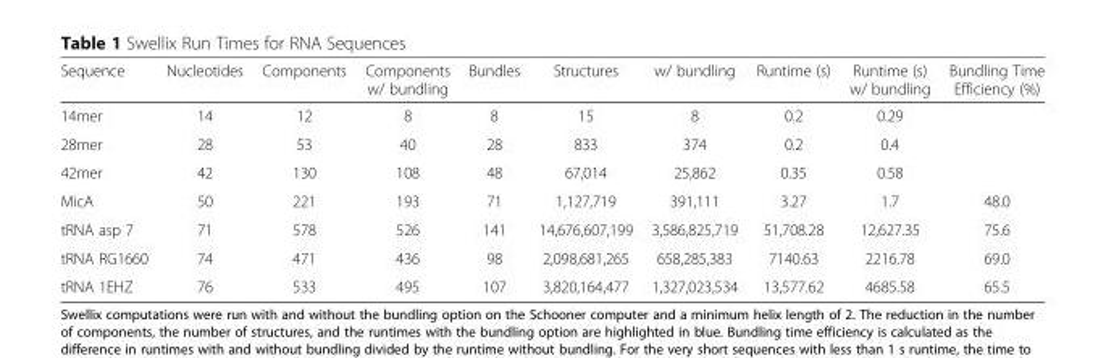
<table><thead><tr><td>Sequence</td><td>Nucleotides</td><td>Components</td><td>Components w/ bundling</td><td>Bundles</td><td>Structures</td><td>w/ bundling</td><td>Runtime (s)</td><td>Runtime (s) w/ bundling</td><td>Bundling Time Efficiency (%)</td></tr></thead><tbody><tr><td>14mer</td><td>14</td><td>12</td><td>8</td><td>8</td><td>15</td><td>8</td><td>0.2</td><td>0.29</td><td></td></tr><tr><td>28mer</td><td>28</td><td>53</td><td>40</td><td>28</td><td>833</td><td>374</td><td>0.2</td><td>0.4</td><td></td></tr><tr><td>42mer</td><td>42</td><td>130</td><td>108</td><td>48</td><td>67,014</td><td>25,862</td><td>0.35</td><td>0.58</td><td></td></tr><tr><td>MicA</td><td>50</td><td>221</td><td>193</td><td>71</td><td>1,127,719</td><td>391,111</td><td>3.27</td><td>1.7</td><td>48.0</td></tr><tr><td>tRNA asp 7</td><td>71</td><td>578</td><td>526</td><td>141</td><td>14,676,607,199</td><td>3,586,825,719</td><td>51,708.28</td><td>12,627.35</td><td>75.6</td></tr><tr><td>tRNA RG1660</td><td>74</td><td>471</td><td>436</td><td>98</td><td>2,098,681,265</td><td>658,285,383</td><td>7140.63</td><td>2216.78</td><td>69.0</td></tr><tr><td>tRNA 1EHZ</td><td>76</td><td>533</td><td>495</td><td>107</td><td>3,820,164,477</td><td>1,327,023,534</td><td>13,577.62</td><td>4685.58</td><td>65.5</td></tr></tbody></table>